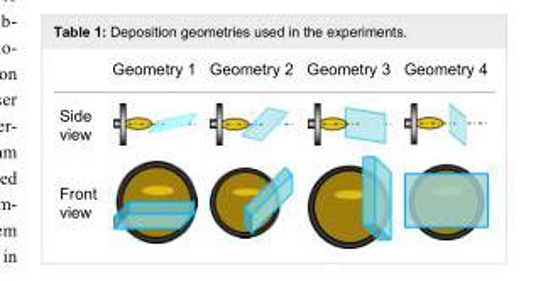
<table><thead><tr><td></td><td>Geometry 1</td><td>Geometry 2</td><td>Geometry 3</td><td>Geometry 4</td></tr></thead><tbody><tr><td colspan="5">Side view</td></tr><tr><td>Front view</td><td></td><td></td><td></td><td></td></tr></tbody></table>